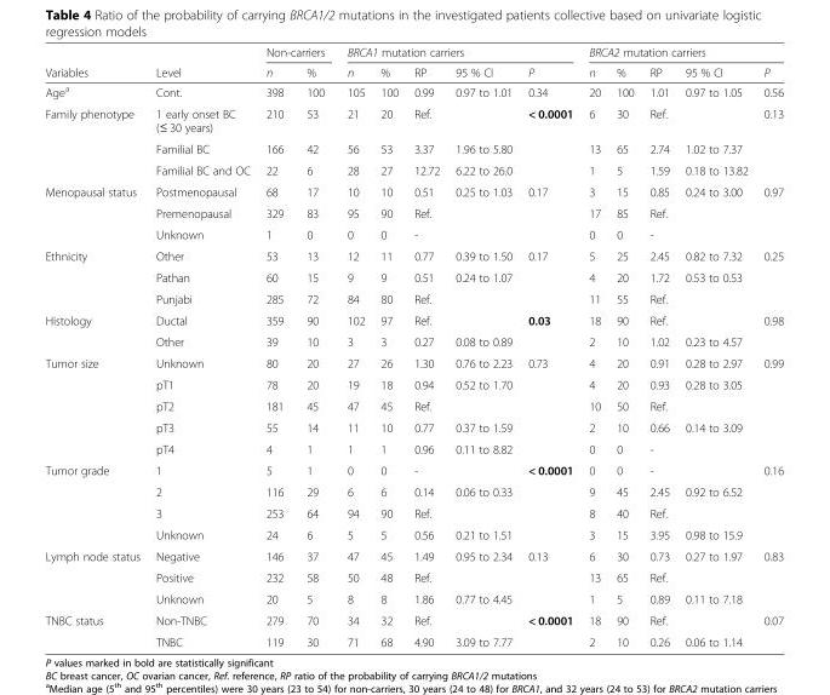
<table><thead><tr><td rowspan="2">Variables</td><td rowspan="2">Level</td><td colspan="2">Non-carriers</td><td colspan="5">BRCA1 mutation carriers</td><td colspan="5">BRCA2 mutation carriers</td></tr><tr><td>n</td><td>%</td><td>n</td><td>%</td><td>RP</td><td>95 % CI</td><td>P</td><td>n</td><td>%</td><td>RP</td><td>95 % CI</td><td>P</td></tr></thead><tbody><tr><td>Age<sup>a</sup></td><td>Cont.</td><td>398</td><td>100</td><td>105</td><td>100</td><td>0.99</td><td>0.97 to 1.01</td><td>0.34</td><td>20</td><td>100</td><td>1.01</td><td>0.97 to 1.05</td><td>0.56</td></tr><tr><td rowspan="3">Family phenotype</td><td>1 early onset BC (≤ 30 years)</td><td>210</td><td>53</td><td>21</td><td>20</td><td>Ref.</td><td></td><td>&lt; 0.0001</td><td>6</td><td>30</td><td>Ref.</td><td></td><td>0.13</td></tr><tr><td>Familial BC</td><td>166</td><td>42</td><td>56</td><td>53</td><td>3.37</td><td>1.96 to 5.80</td><td></td><td>13</td><td>65</td><td>2.74</td><td>1.02 to 7.37</td><td></td></tr><tr><td>Familial BC and OC</td><td>22</td><td>6</td><td>28</td><td>27</td><td>12.72</td><td>6.22 to 26.0</td><td></td><td>1</td><td>5</td><td>1.59</td><td>0.18 to 13.82</td><td></td></tr><tr><td rowspan="3">Menopausal status</td><td>Postmenopausal</td><td>68</td><td>17</td><td>10</td><td>10</td><td>0.51</td><td>0.25 to 1.03</td><td>0.17</td><td>3</td><td>15</td><td>0.85</td><td>0.24 to 3.00</td><td>0.97</td></tr><tr><td>Premenopausal</td><td>329</td><td>83</td><td>95</td><td>90</td><td>Ref.</td><td></td><td></td><td>17</td><td>85</td><td>Ref.</td><td></td><td></td></tr><tr><td>Unknown</td><td>1</td><td>0</td><td>0</td><td>0</td><td>-</td><td></td><td></td><td>0</td><td>0</td><td>-</td><td></td><td></td></tr><tr><td rowspan="3">Ethnicity</td><td>Other</td><td>53</td><td>13</td><td>12</td><td>11</td><td>0.77</td><td>0.39 to 1.50</td><td>0.17</td><td>5</td><td>25</td><td>2.45</td><td>0.82 to 7.32</td><td>0.25</td></tr><tr><td>Pathan</td><td>60</td><td>15</td><td>9</td><td>9</td><td>0.51</td><td>0.24 to 1.07</td><td></td><td>4</td><td>20</td><td>1.72</td><td>0.53 to 0.53</td><td></td></tr><tr><td>Punjabi</td><td>285</td><td>72</td><td>84</td><td>80</td><td>Ref.</td><td></td><td></td><td>11</td><td>55</td><td>Ref.</td><td></td><td></td></tr><tr><td rowspan="2">Histology</td><td>Ductal</td><td>359</td><td>90</td><td>102</td><td>97</td><td>Ref.</td><td></td><td>0.03</td><td>18</td><td>90</td><td>Ref.</td><td></td><td>0.98</td></tr><tr><td>Other</td><td>39</td><td>10</td><td>3</td><td>3</td><td>0.27</td><td>0.08 to 0.89</td><td></td><td>2</td><td>10</td><td>1.02</td><td>0.23 to 4.57</td><td></td></tr><tr><td rowspan="5">Tumor size</td><td>Unknown</td><td>80</td><td>20</td><td>27</td><td>26</td><td>1.30</td><td>0.76 to 2.23</td><td>0.73</td><td>4</td><td>20</td><td>0.91</td><td>0.28 to 2.97</td><td>0.99</td></tr><tr><td>pT1</td><td>78</td><td>20</td><td>19</td><td>18</td><td>0.94</td><td>0.52 to 1.70</td><td></td><td>4</td><td>20</td><td>0.93</td><td>0.28 to 3.05</td><td></td></tr><tr><td>pT2</td><td>181</td><td>45</td><td>47</td><td>45</td><td>Ref.</td><td></td><td></td><td>10</td><td>50</td><td>Ref.</td><td></td><td></td></tr><tr><td>pT3</td><td>55</td><td>14</td><td>11</td><td>10</td><td>0.77</td><td>0.37 to 1.59</td><td></td><td>2</td><td>10</td><td>0.66</td><td>0.14 to 3.09</td><td></td></tr><tr><td>pT4</td><td>4</td><td>1</td><td>1</td><td>1</td><td>0.96</td><td>0.11 to 8.82</td><td></td><td>0</td><td>0</td><td>-</td><td></td><td></td></tr><tr><td rowspan="4">Tumor grade</td><td>1</td><td>5</td><td>1</td><td>0</td><td>0</td><td>-</td><td></td><td>&lt; 0.0001</td><td>0</td><td>0</td><td>-</td><td></td><td>0.16</td></tr><tr><td>2</td><td>116</td><td>29</td><td>6</td><td>6</td><td>0.14</td><td>0.06 to 0.33</td><td></td><td>9</td><td>45</td><td>2.45</td><td>0.92 to 6.52</td><td></td></tr><tr><td>3</td><td>253</td><td>64</td><td>94</td><td>90</td><td>Ref.</td><td></td><td></td><td>8</td><td>40</td><td>Ref.</td><td></td><td></td></tr><tr><td>Unknown</td><td>24</td><td>6</td><td>5</td><td>5</td><td>0.56</td><td>0.21 to 1.51</td><td></td><td>3</td><td>15</td><td>3.95</td><td>0.98 to 15.9</td><td></td></tr><tr><td rowspan="3">Lymph node status</td><td>Negative</td><td>146</td><td>37</td><td>47</td><td>45</td><td>1.49</td><td>0.95 to 2.34</td><td>0.13</td><td>6</td><td>30</td><td>0.73</td><td>0.27 to 1.97</td><td>0.83</td></tr><tr><td>Positive</td><td>232</td><td>58</td><td>50</td><td>48</td><td>Ref.</td><td></td><td></td><td>13</td><td>65</td><td>Ref.</td><td></td><td></td></tr><tr><td>Unknown</td><td>20</td><td>5</td><td>8</td><td>8</td><td>1.86</td><td>0.77 to 4.45</td><td></td><td>1</td><td>5</td><td>0.89</td><td>0.11 to 7.18</td><td></td></tr><tr><td rowspan="2">TNBC status</td><td>Non-TNBC</td><td>279</td><td>70</td><td>34</td><td>32</td><td>Ref.</td><td></td><td>&lt; 0.0001</td><td>18</td><td>90</td><td>Ref.</td><td></td><td>0.07</td></tr><tr><td>TNBC</td><td>119</td><td>30</td><td>71</td><td>68</td><td>4.90</td><td>3.09 to 7.77</td><td></td><td>2</td><td>10</td><td>0.26</td><td>0.06 to 1.14</td><td></td></tr></tbody></table>